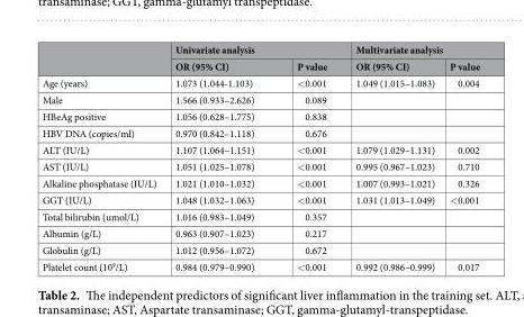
<table><thead><tr><td rowspan="2"></td><td colspan="2">Univariate analysis</td><td colspan="2">Multivariate analysis</td></tr><tr><td>OR (95% CI)</td><td>P value</td><td>OR (95% CI)</td><td>P value</td></tr></thead><tbody><tr><td>Age (years)</td><td>1.073 (1.044-1.103)</td><td>&lt;0.001</td><td>1.049 (1.015–1.083)</td><td>0.004</td></tr><tr><td>Male</td><td>1.566 (0.933–2.626)</td><td>0.089</td><td></td><td></td></tr><tr><td>HBeAg positive</td><td>1.056 (0.628–1.775)</td><td>0.838</td><td></td><td></td></tr><tr><td>HBV DNA (copies/ml)</td><td>0.970 (0.842–1.118)</td><td>0.676</td><td></td><td></td></tr><tr><td>ALT (IU/L)</td><td>1.107 (1.064–1.151)</td><td>&lt;0.001</td><td>1.079 (1.029–1.131)</td><td>0.002</td></tr><tr><td>AST (IU/L)</td><td>1.051 (1.025–1.078)</td><td>&lt;0.001</td><td>0.995 (0.967–1.023)</td><td>0.710</td></tr><tr><td>Alkaline phosphatase (IU/L)</td><td>1.021 (1.010–1.032)</td><td>&lt;0.001</td><td>1.007 (0.993–1.021)</td><td>0.326</td></tr><tr><td>GGT (IU/L)</td><td>1.048 (1.032–1.063)</td><td>&lt;0.001</td><td>1.031 (1.013–1.049)</td><td>&lt;0.001</td></tr><tr><td>Total bilirubin (umol/L)</td><td>1.016 (0.983–1.049)</td><td>0.357</td><td></td><td></td></tr><tr><td>Albumin (g/L)</td><td>0.963 (0.907–1.023)</td><td>0.217</td><td></td><td></td></tr><tr><td>Globulin (g/L)</td><td>1.012 (0.956–1.072)</td><td>0.672</td><td></td><td></td></tr><tr><td>Platelet count (10<sup>9</sup>/L)</td><td>0.984 (0.979–0.990)</td><td>&lt;0.001</td><td>0.992 (0.986–0.999)</td><td>0.017</td></tr></tbody></table>